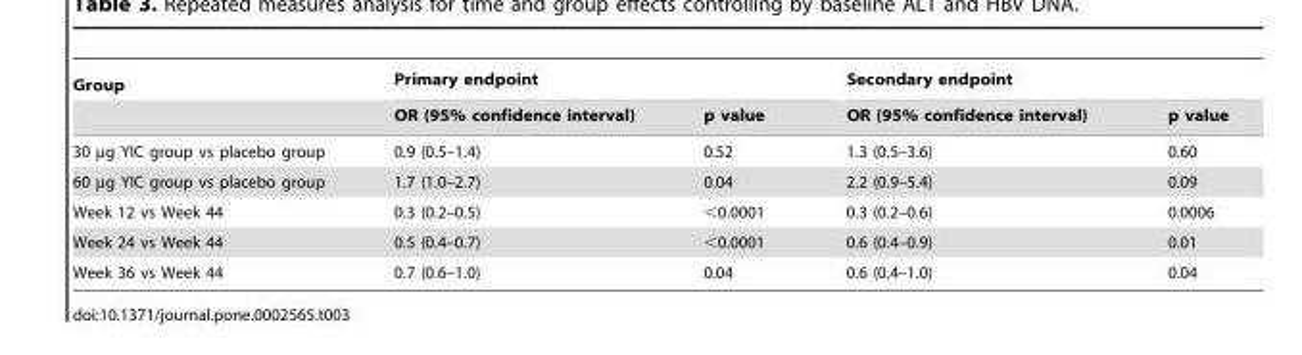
<table><thead><tr><td rowspan="2">Group</td><td colspan="2">Primary endpoint</td><td colspan="2">Secondary endpoint</td></tr><tr><td>OR (95% confidence interval)</td><td>p value</td><td>OR (95% confidence interval)</td><td>p value</td></tr></thead><tbody><tr><td>30 µg YIC group vs placebo group</td><td>0.9 (0.5–1.4)</td><td>0.52</td><td>1.3 (0.5–3.6)</td><td>0.60</td></tr><tr><td>60 µg YIC group vs placebo group</td><td>1.7 (1.0–2.7)</td><td>0.04</td><td>2.2 (0.9–5.4)</td><td>0.09</td></tr><tr><td>Week 12 vs Week 44</td><td>0.3 (0.2–0.5)</td><td>&lt;0.0001</td><td>0.3 (0.2–0.6)</td><td>0.0006</td></tr><tr><td>Week 24 vs Week 44</td><td>0.5 (0.4–0.7)</td><td>&lt;0.0001</td><td>0.6 (0.4–0.9)</td><td>0.01</td></tr><tr><td>Week 36 vs Week 44</td><td>0.7 (0.6–1.0)</td><td>0.04</td><td>0.6 (0.4–1.0)</td><td>0.04</td></tr></tbody></table>